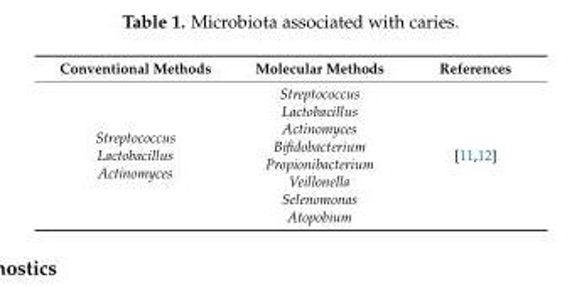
<table><thead><tr><td>Conventional Methods</td><td>Molecular Methods</td><td>References</td></tr></thead><tbody><tr><td>Streptococcus Lactobacillus Actinomyces</td><td>Streptococcus Lactobacillus Actinomyces Bifidobacterium Propionibacterium Veillonella Selenomonas Atopobium</td><td>[11,12]</td></tr></tbody></table>